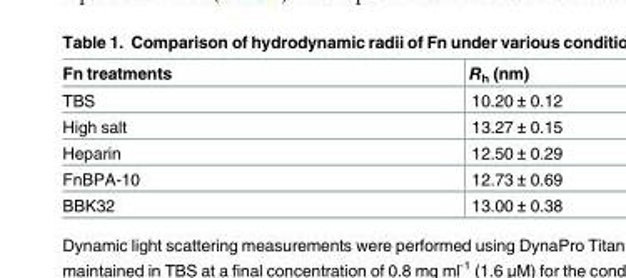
<table><thead><tr><td>Fn treatments</td><td>R<sub>h</sub> (nm)</td></tr></thead><tbody><tr><td>TBS</td><td>10.20 ± 0.12</td></tr><tr><td>High salt</td><td>13.27 ± 0.15</td></tr><tr><td>Heparin</td><td>12.50 ± 0.29</td></tr><tr><td>FnBPA-10</td><td>12.73 ± 0.69</td></tr><tr><td>BBK32</td><td>13.00 ± 0.38</td></tr></tbody></table>